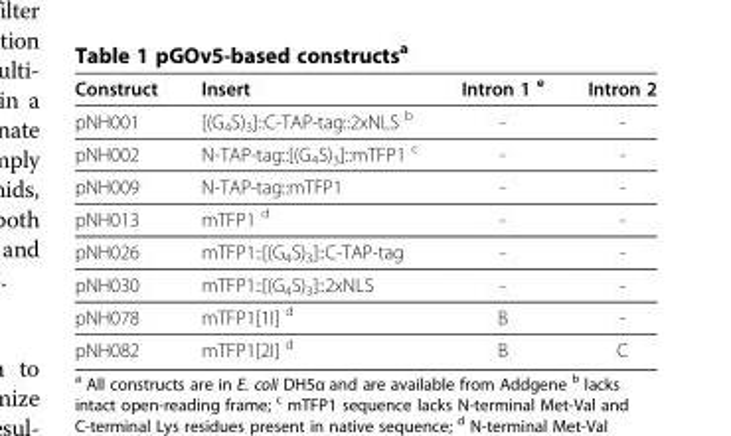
<table><thead><tr><td>Construct</td><td>Insert</td><td>Intron 1 <sup>e</sup></td><td>Intron 2</td></tr></thead><tbody><tr><td>pNH001</td><td>[(G<sub>4</sub>S)<sub>3</sub>]::C-TAP-tag::2xNLS <sup>b</sup></td><td>-</td><td>-</td></tr><tr><td>pNH002</td><td>N-TAP-tag::[(G<sub>4</sub>S)<sub>3</sub>]::mTFP1 <sup>c</sup></td><td>-</td><td>-</td></tr><tr><td>pNH009</td><td>N-TAP-tag::mTFP1</td><td>-</td><td>-</td></tr><tr><td>pNH013</td><td>mTFP1 <sup>d</sup></td><td>-</td><td>-</td></tr><tr><td>pNH026</td><td>mTFP1::[(G<sub>4</sub>S)<sub>3</sub>]::C-TAP-tag</td><td>-</td><td>-</td></tr><tr><td>pNH030</td><td>mTFP1::[(G<sub>4</sub>S)<sub>3</sub>]::2xNLS</td><td>-</td><td>-</td></tr><tr><td>pNH078</td><td>mTFP1[1I] <sup>d</sup></td><td>B</td><td>-</td></tr><tr><td>pNH082</td><td>mTFP1[2I] <sup>d</sup></td><td>B</td><td>C</td></tr></tbody></table>